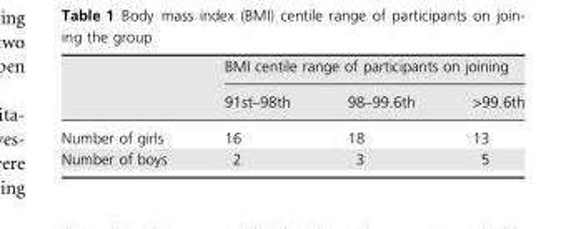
<table><thead><tr><td rowspan="2"></td><td colspan="3">BMI centile range of participants on joining</td></tr><tr><td>91st–98th</td><td>98–99.6th</td><td>&gt;99.6th</td></tr></thead><tbody><tr><td>Number of girls</td><td>16</td><td>18</td><td>13</td></tr><tr><td>Number of boys</td><td>2</td><td>3</td><td>5</td></tr></tbody></table>